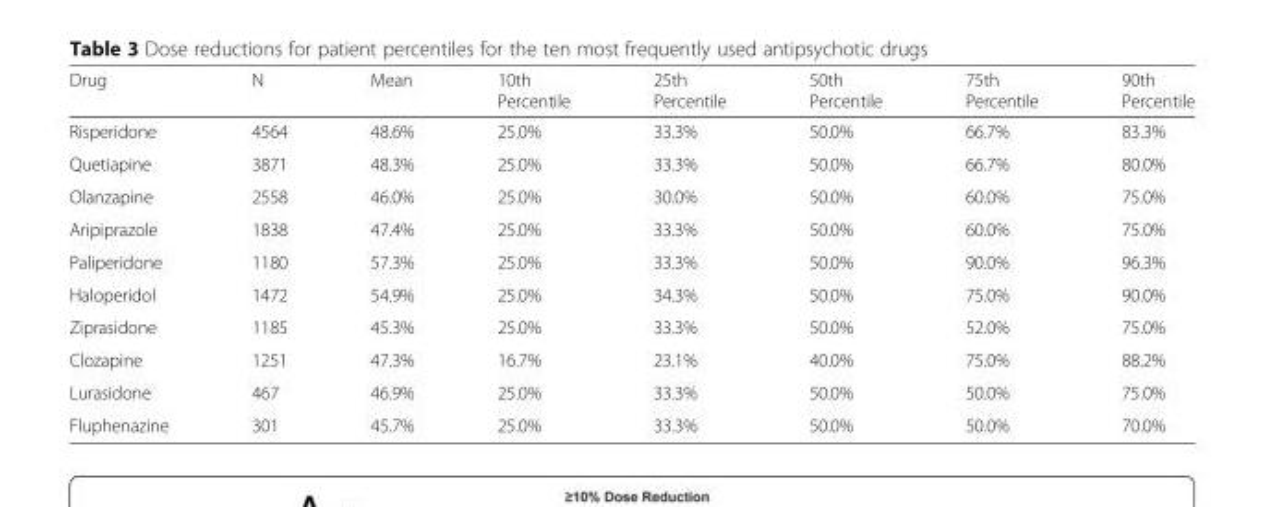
<table><thead><tr><td>Drug</td><td>N</td><td>Mean</td><td>10th Percentile</td><td>25th Percentile</td><td>50th Percentile</td><td>75th Percentile</td><td>90th Percentile</td></tr></thead><tbody><tr><td>Risperidone</td><td>4564</td><td>48.6%</td><td>25.0%</td><td>33.3%</td><td>50.0%</td><td>66.7%</td><td>83.3%</td></tr><tr><td>Quetiapine</td><td>3871</td><td>48.3%</td><td>25.0%</td><td>33.3%</td><td>50.0%</td><td>66.7%</td><td>80.0%</td></tr><tr><td>Olanzapine</td><td>2558</td><td>46.0%</td><td>25.0%</td><td>30.0%</td><td>50.0%</td><td>60.0%</td><td>75.0%</td></tr><tr><td>Aripiprazole</td><td>1838</td><td>47.4%</td><td>25.0%</td><td>33.3%</td><td>50.0%</td><td>60.0%</td><td>75.0%</td></tr><tr><td>Paliperidone</td><td>1180</td><td>57.3%</td><td>25.0%</td><td>33.3%</td><td>50.0%</td><td>90.0%</td><td>96.3%</td></tr><tr><td>Haloperidol</td><td>1472</td><td>54.9%</td><td>25.0%</td><td>34.3%</td><td>50.0%</td><td>75.0%</td><td>90.0%</td></tr><tr><td>Ziprasidone</td><td>1185</td><td>45.3%</td><td>25.0%</td><td>33.3%</td><td>50.0%</td><td>52.0%</td><td>75.0%</td></tr><tr><td>Clozapine</td><td>1251</td><td>47.3%</td><td>16.7%</td><td>23.1%</td><td>40.0%</td><td>75.0%</td><td>88.2%</td></tr><tr><td>Lurasidone</td><td>467</td><td>46.9%</td><td>25.0%</td><td>33.3%</td><td>50.0%</td><td>50.0%</td><td>75.0%</td></tr><tr><td>Fluphenazine</td><td>301</td><td>45.7%</td><td>25.0%</td><td>33.3%</td><td>50.0%</td><td>50.0%</td><td>70.0%</td></tr></tbody></table>